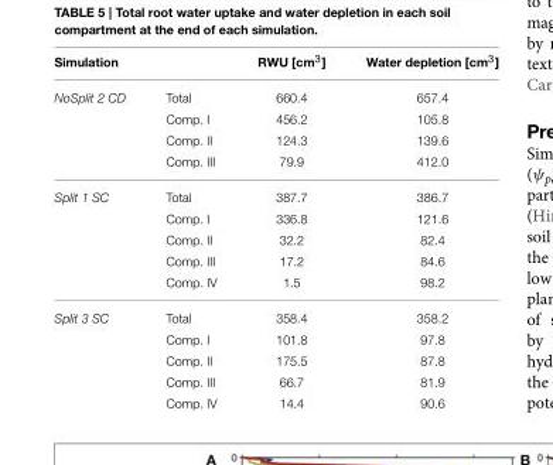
<table><thead><tr><td>Simulation</td><td></td><td>RWU [cm<sup>3</sup>]</td><td>Water depletion [cm<sup>3</sup>]</td></tr></thead><tbody><tr><td rowspan="4">NoSplit 2 CD</td><td>Total</td><td>660.4</td><td>657.4</td></tr><tr><td>Comp. I</td><td>456.2</td><td>105.8</td></tr><tr><td>Comp. II</td><td>124.3</td><td>139.6</td></tr><tr><td>Comp. III</td><td>79.9</td><td>412.0</td></tr><tr><td rowspan="5">Split 1 SC</td><td>Total</td><td>387.7</td><td>386.7</td></tr><tr><td>Comp. I</td><td>336.8</td><td>121.6</td></tr><tr><td>Comp. II</td><td>32.2</td><td>82.4</td></tr><tr><td>Comp. III</td><td>17.2</td><td>84.6</td></tr><tr><td>Comp. IV</td><td>1.5</td><td>98.2</td></tr><tr><td rowspan="5">Split 3 SC</td><td>Total</td><td>358.4</td><td>358.2</td></tr><tr><td>Comp. I</td><td>101.8</td><td>97.8</td></tr><tr><td>Comp. II</td><td>175.5</td><td>87.8</td></tr><tr><td>Comp. III</td><td>66.7</td><td>81.9</td></tr><tr><td>Comp. IV</td><td>14.4</td><td>90.6</td></tr></tbody></table>